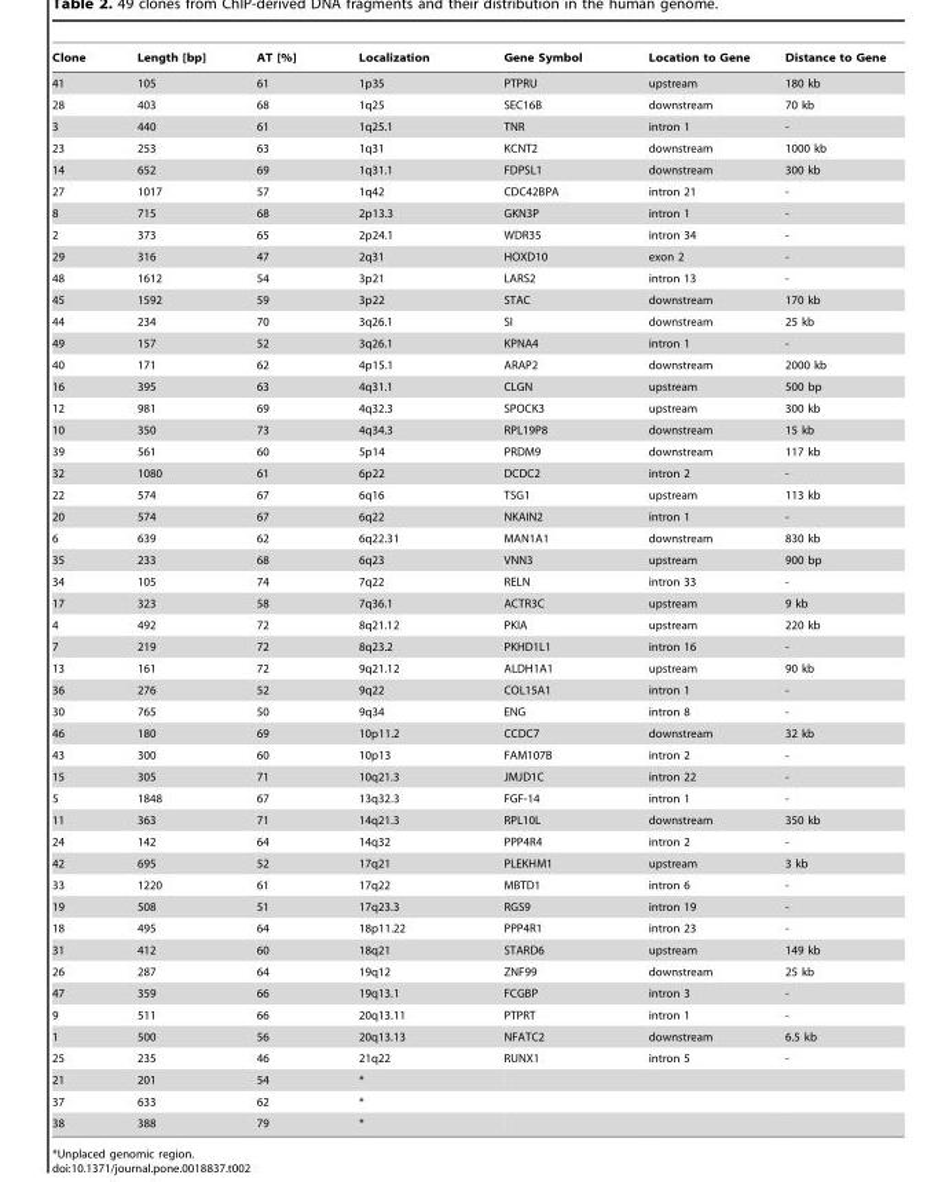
<table><thead><tr><td>Clone</td><td>Length [bp]</td><td>AT [%]</td><td>Localization</td><td>Gene Symbol</td><td>Location to Gene</td><td>Distance to Gene</td></tr></thead><tbody><tr><td>41</td><td>105</td><td>61</td><td>1p35</td><td>PTPRU</td><td>upstream</td><td>180 kb</td></tr><tr><td>28</td><td>403</td><td>68</td><td>1q25</td><td>SEC16B</td><td>downstream</td><td>70 kb</td></tr><tr><td>3</td><td>440</td><td>61</td><td>1q25.1</td><td>TNR</td><td>intron 1</td><td>-</td></tr><tr><td>23</td><td>253</td><td>63</td><td>1q31</td><td>KCNT2</td><td>downstream</td><td>1000 kb</td></tr><tr><td>14</td><td>652</td><td>69</td><td>1q31.1</td><td>FDPSL1</td><td>downstream</td><td>300 kb</td></tr><tr><td>27</td><td>1017</td><td>57</td><td>1q42</td><td>CDC42BPA</td><td>intron 21</td><td>-</td></tr><tr><td>8</td><td>715</td><td>68</td><td>2p13.3</td><td>GKN3P</td><td>intron 1</td><td>-</td></tr><tr><td>2</td><td>373</td><td>65</td><td>2p24.1</td><td>WDR35</td><td>intron 34</td><td>-</td></tr><tr><td>29</td><td>316</td><td>47</td><td>2q31</td><td>HOXD10</td><td>exon 2</td><td>-</td></tr><tr><td>48</td><td>1612</td><td>54</td><td>3p21</td><td>LARS2</td><td>intron 13</td><td>-</td></tr><tr><td>45</td><td>1592</td><td>59</td><td>3p22</td><td>STAC</td><td>downstream</td><td>170 kb</td></tr><tr><td>44</td><td>234</td><td>70</td><td>3q26.1</td><td>SI</td><td>downstream</td><td>25 kb</td></tr><tr><td>49</td><td>157</td><td>52</td><td>3q26.1</td><td>KPNA4</td><td>intron 1</td><td>-</td></tr><tr><td>40</td><td>171</td><td>62</td><td>4p15.1</td><td>ARAP2</td><td>downstream</td><td>2000 kb</td></tr><tr><td>16</td><td>395</td><td>63</td><td>4q31.1</td><td>CLGN</td><td>upstream</td><td>500 bp</td></tr><tr><td>12</td><td>981</td><td>69</td><td>4q32.3</td><td>SPOCK3</td><td>upstream</td><td>300 kb</td></tr><tr><td>10</td><td>350</td><td>73</td><td>4q34.3</td><td>RPL19P8</td><td>downstream</td><td>15 kb</td></tr><tr><td>39</td><td>561</td><td>60</td><td>5p14</td><td>PRDM9</td><td>downstream</td><td>117 kb</td></tr><tr><td>32</td><td>1080</td><td>61</td><td>6p22</td><td>DCDC2</td><td>intron 2</td><td>-</td></tr><tr><td>22</td><td>574</td><td>67</td><td>6q16</td><td>TSG1</td><td>upstream</td><td>113 kb</td></tr><tr><td>20</td><td>574</td><td>67</td><td>6q22</td><td>NKAIN2</td><td>intron 1</td><td>-</td></tr><tr><td>6</td><td>639</td><td>62</td><td>6q22.31</td><td>MAN1A1</td><td>downstream</td><td>830 kb</td></tr><tr><td>35</td><td>233</td><td>68</td><td>6q23</td><td>VNN3</td><td>upstream</td><td>900 bp</td></tr><tr><td>34</td><td>105</td><td>74</td><td>7q22</td><td>RELN</td><td>intron 33</td><td>-</td></tr><tr><td>17</td><td>323</td><td>58</td><td>7q36.1</td><td>ACTR3C</td><td>upstream</td><td>9 kb</td></tr><tr><td>4</td><td>492</td><td>72</td><td>8q21.12</td><td>PKIA</td><td>upstream</td><td>220 kb</td></tr><tr><td>7</td><td>219</td><td>72</td><td>8q23.2</td><td>PKHD1L1</td><td>intron 16</td><td>-</td></tr><tr><td>13</td><td>161</td><td>72</td><td>9q21.12</td><td>ALDH1A1</td><td>upstream</td><td>90 kb</td></tr><tr><td>36</td><td>276</td><td>52</td><td>9q22</td><td>COL15A1</td><td>intron 1</td><td>-</td></tr><tr><td>30</td><td>765</td><td>50</td><td>9q34</td><td>ENG</td><td>intron 8</td><td>-</td></tr><tr><td>46</td><td>180</td><td>69</td><td>10p11.2</td><td>CCDC7</td><td>downstream</td><td>32 kb</td></tr><tr><td>43</td><td>300</td><td>60</td><td>10p13</td><td>FAM107B</td><td>intron 2</td><td>-</td></tr><tr><td>15</td><td>305</td><td>71</td><td>10q21.3</td><td>JMJD1C</td><td>intron 22</td><td>-</td></tr><tr><td>5</td><td>1848</td><td>67</td><td>13q32.3</td><td>FGF-14</td><td>intron 1</td><td>-</td></tr><tr><td>11</td><td>363</td><td>71</td><td>14q21.3</td><td>RPL10L</td><td>downstream</td><td>350 kb</td></tr><tr><td>24</td><td>142</td><td>64</td><td>14q32</td><td>PPP4R4</td><td>intron 2</td><td>-</td></tr><tr><td>42</td><td>695</td><td>52</td><td>17q21</td><td>PLEKHM1</td><td>upstream</td><td>3 kb</td></tr><tr><td>33</td><td>1220</td><td>61</td><td>17q22</td><td>MBTD1</td><td>intron 6</td><td>-</td></tr><tr><td>19</td><td>508</td><td>51</td><td>17q23.3</td><td>RGS9</td><td>intron 19</td><td>-</td></tr><tr><td>18</td><td>495</td><td>64</td><td>18p11.22</td><td>PPP4R1</td><td>intron 23</td><td>-</td></tr><tr><td>31</td><td>412</td><td>60</td><td>18q21</td><td>STARD6</td><td>upstream</td><td>149 kb</td></tr><tr><td>26</td><td>287</td><td>64</td><td>19q12</td><td>ZNF99</td><td>downstream</td><td>25 kb</td></tr><tr><td>47</td><td>359</td><td>66</td><td>19q13.1</td><td>FCGBP</td><td>intron 3</td><td>-</td></tr><tr><td>9</td><td>511</td><td>66</td><td>20q13.11</td><td>PTPRT</td><td>intron 1</td><td>-</td></tr><tr><td>1</td><td>500</td><td>56</td><td>20q13.13</td><td>NFATC2</td><td>downstream</td><td>6.5 kb</td></tr><tr><td>25</td><td>235</td><td>46</td><td>21q22</td><td>RUNX1</td><td>intron 5</td><td>-</td></tr><tr><td>21</td><td>201</td><td>54</td><td>*</td><td></td><td></td><td></td></tr><tr><td>37</td><td>633</td><td>62</td><td>*</td><td></td><td></td><td></td></tr><tr><td>38</td><td>388</td><td>79</td><td>*</td><td></td><td></td><td></td></tr></tbody></table>